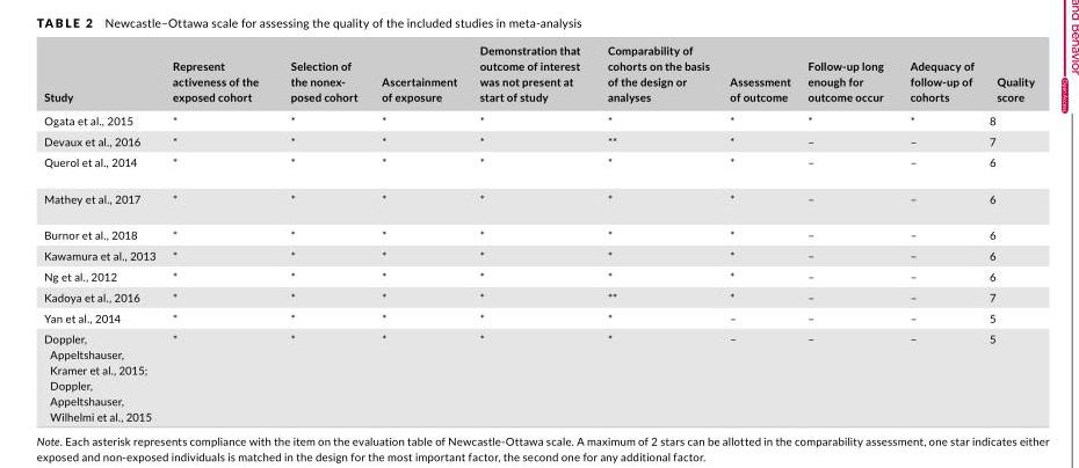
<table><thead><tr><td>Study</td><td>Represent activeness of the exposed cohort</td><td>Selection of the nonex‐ posed cohort</td><td>Ascertainment of exposure</td><td>Demonstration that outcome of interest was not present at start of study</td><td>Comparability of cohorts on the basis of the design or analyses</td><td>Assessment of outcome</td><td>Follow‐up long enough for outcome occur</td><td>Adequacy of follow‐up of cohorts</td><td>Quality score</td></tr></thead><tbody><tr><td>Ogata et al., 2015</td><td>*</td><td>*</td><td>*</td><td>*</td><td>*</td><td>*</td><td>*</td><td>*</td><td>8</td></tr><tr><td>Devaux et al., 2016</td><td>*</td><td>*</td><td>*</td><td>*</td><td>**</td><td>*</td><td>–</td><td>–</td><td>7</td></tr><tr><td>Querol et al., 2014</td><td>*</td><td>*</td><td>*</td><td>*</td><td>*</td><td>*</td><td>–</td><td>–</td><td>6</td></tr><tr><td>Mathey et al., 2017</td><td>*</td><td>*</td><td>*</td><td>*</td><td>*</td><td>*</td><td>–</td><td>–</td><td>6</td></tr><tr><td>Burnor et al., 2018</td><td>*</td><td>*</td><td>*</td><td>*</td><td>*</td><td>*</td><td>–</td><td>–</td><td>6</td></tr><tr><td>Kawamura et al., 2013</td><td>*</td><td>*</td><td>*</td><td>*</td><td>*</td><td>*</td><td>–</td><td>–</td><td>6</td></tr><tr><td>Ng et al., 2012</td><td>*</td><td>*</td><td>*</td><td>*</td><td>*</td><td>*</td><td>–</td><td>–</td><td>6</td></tr><tr><td>Kadoya et al., 2016</td><td>*</td><td>*</td><td>*</td><td>*</td><td>**</td><td>*</td><td>–</td><td>–</td><td>7</td></tr><tr><td>Yan et al., 2014</td><td>*</td><td>*</td><td>*</td><td>*</td><td>*</td><td>–</td><td>–</td><td>–</td><td>5</td></tr><tr><td>Doppler, Appeltshauser, Kramer et al., 2015; Doppler, Appeltshauser, Wilhelmi et al., 2015</td><td>*</td><td>*</td><td>*</td><td>*</td><td>*</td><td>–</td><td>–</td><td>–</td><td>5</td></tr></tbody></table>